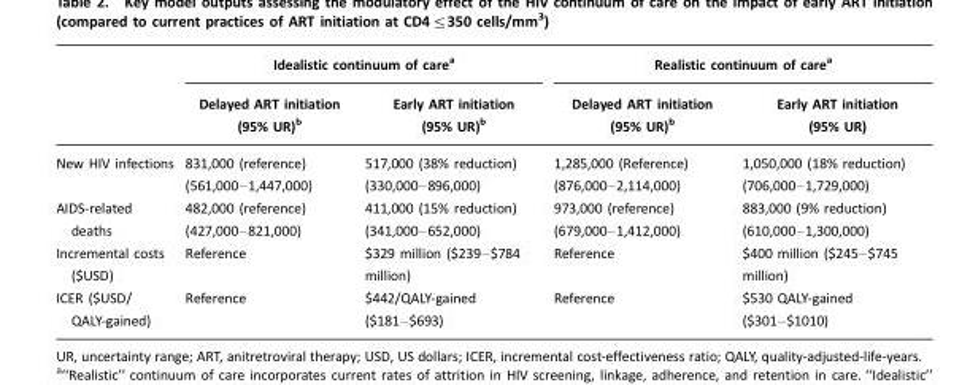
<table><thead><tr><td rowspan="2"></td><td colspan="2">Idealistic continuum of care<sup>a</sup></td><td colspan="2">Realistic continuum of care<sup>a</sup></td></tr><tr><td>Delayed ART initiation (95% UR)<sup>b</sup></td><td>Early ART initiation (95% UR)<sup>b</sup></td><td>Delayed ART initiation (95% UR)<sup>b</sup></td><td>Early ART initiation (95% UR)</td></tr></thead><tbody><tr><td>New HIV infections</td><td>831,000 (reference) (561,000–1,447,000)</td><td>517,000 (38% reduction) (330,000–896,000)</td><td>1,285,000 (Reference) (876,000–2,114,000)</td><td>1,050,000 (18% reduction) (706,000–1,729,000)</td></tr><tr><td>AIDS-related deaths</td><td>482,000 (reference) (427,000–821,000)</td><td>411,000 (15% reduction) (341,000–652,000)</td><td>973,000 (reference) (679,000–1,412,000)</td><td>883,000 (9% reduction) (610,000–1,300,000)</td></tr><tr><td>Incremental costs ($USD)</td><td>Reference</td><td>$329 million ($239–$784 million)</td><td>Reference</td><td>$400 million ($245–$745 million)</td></tr><tr><td>ICER ($USD/ QALY-gained)</td><td>Reference</td><td>$442/QALY-gained ($181–$693)</td><td>Reference</td><td>$530 QALY-gained ($301–$1010)</td></tr></tbody></table>